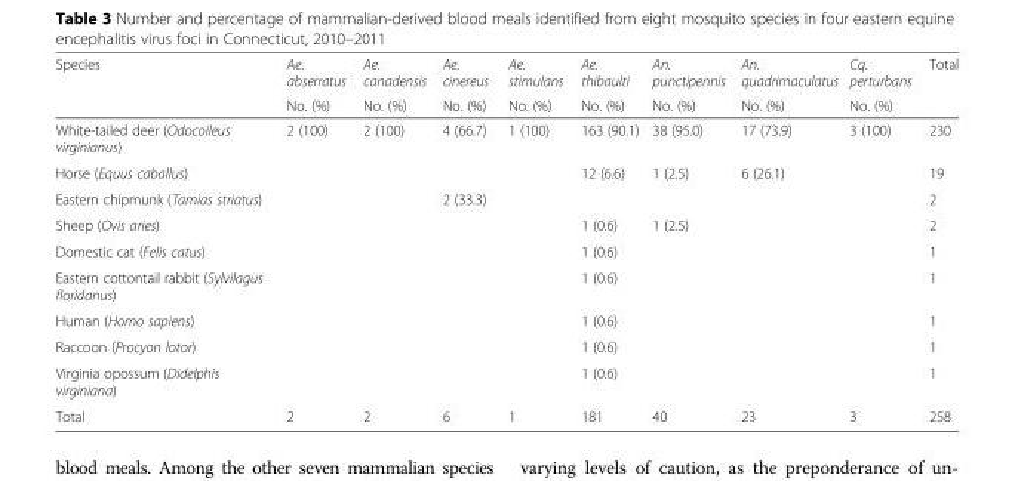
<table><thead><tr><td rowspan="2">Species</td><td rowspan="2">Ae. abserratus No. (%)</td><td rowspan="2">Ae. canadensis No. (%)</td><td rowspan="2">Ae. cinereus No. (%)</td><td rowspan="2">Ae. stimulans No. (%)</td><td rowspan="2">Ae. thibaulti No. (%)</td><td rowspan="2">An. punctipennis No. (%)</td><td rowspan="2">An. quadrimaculatus No. (%)</td><td rowspan="2">Cq. perturbans No. (%)</td><td rowspan="2">Total</td></tr><tr></tr></thead><tbody><tr><td>White-tailed deer (Odocoileus virginianus)</td><td>2 (100)</td><td>2 (100)</td><td>4 (66.7)</td><td>1 (100)</td><td>163 (90.1)</td><td>38 (95.0)</td><td>17 (73.9)</td><td>3 (100)</td><td>230</td></tr><tr><td>Horse (Equus caballus)</td><td></td><td></td><td></td><td></td><td>12 (6.6)</td><td>1 (2.5)</td><td>6 (26.1)</td><td></td><td>19</td></tr><tr><td>Eastern chipmunk (Tamias striatus)</td><td></td><td></td><td>2 (33.3)</td><td></td><td></td><td></td><td></td><td></td><td>2</td></tr><tr><td>Sheep (Ovis aries)</td><td></td><td></td><td></td><td></td><td>1 (0.6)</td><td>1 (2.5)</td><td></td><td></td><td>2</td></tr><tr><td>Domestic cat (Felis catus)</td><td></td><td></td><td></td><td></td><td>1 (0.6)</td><td></td><td></td><td></td><td>1</td></tr><tr><td>Eastern cottontail rabbit (Sylvilagus floridanus)</td><td></td><td></td><td></td><td></td><td>1 (0.6)</td><td></td><td></td><td></td><td>1</td></tr><tr><td>Human (Homo sapiens)</td><td></td><td></td><td></td><td></td><td>1 (0.6)</td><td></td><td></td><td></td><td>1</td></tr><tr><td>Raccoon (Procyon lotor)</td><td></td><td></td><td></td><td></td><td>1 (0.6)</td><td></td><td></td><td></td><td>1</td></tr><tr><td>Virginia opossum (Didelphis virginiana)</td><td></td><td></td><td></td><td></td><td>1 (0.6)</td><td></td><td></td><td></td><td>1</td></tr><tr><td>Total</td><td>2</td><td>2</td><td>6</td><td>1</td><td>181</td><td>40</td><td>23</td><td>3</td><td>258</td></tr></tbody></table>